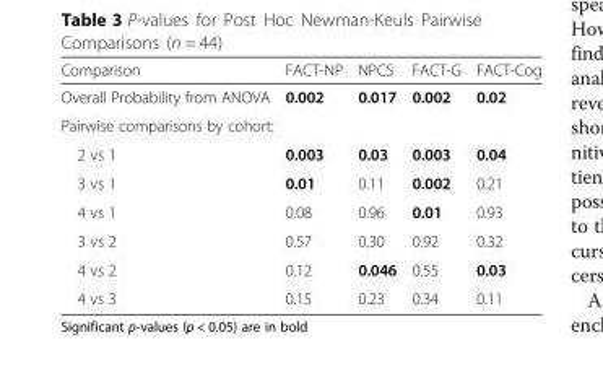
<table><thead><tr><td>Comparison</td><td>FACT-NP</td><td>NPCS</td><td>FACT-G</td><td>FACT-Cog</td></tr></thead><tbody><tr><td>Overall Probability from ANOVA</td><td>0.002</td><td>0.017</td><td>0.002</td><td>0.02</td></tr><tr><td colspan="5">Pairwise comparisons by cohort:</td></tr><tr><td>2 vs 1</td><td>0.003</td><td>0.03</td><td>0.003</td><td>0.04</td></tr><tr><td>3 vs 1</td><td>0.01</td><td>0.11</td><td>0.002</td><td>0.21</td></tr><tr><td>4 vs 1</td><td>0.08</td><td>0.96</td><td>0.01</td><td>0.93</td></tr><tr><td>3 vs 2</td><td>0.57</td><td>0.30</td><td>0.92</td><td>0.32</td></tr><tr><td>4 vs 2</td><td>0.12</td><td>0.046</td><td>0.55</td><td>0.03</td></tr><tr><td>4 vs 3</td><td>0.15</td><td>0.23</td><td>0.34</td><td>0.11</td></tr></tbody></table>